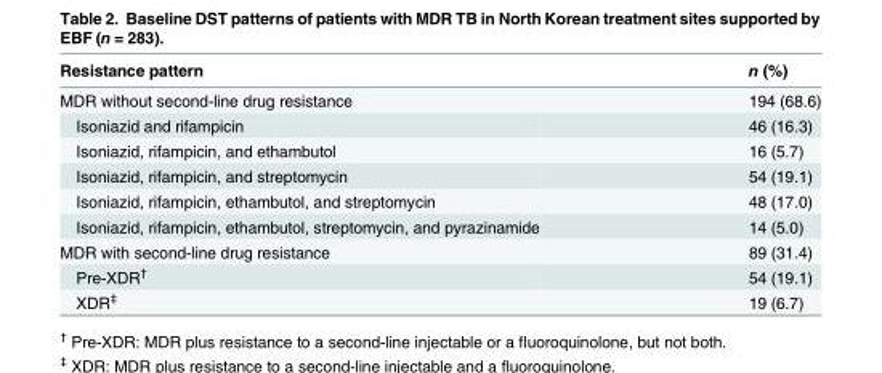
<table><thead><tr><td>Resistance pattern</td><td>n (%)</td></tr></thead><tbody><tr><td>MDR without second-line drug resistance</td><td>194 (68.6)</td></tr><tr><td>Isoniazid and rifampicin</td><td>46 (16.3)</td></tr><tr><td>Isoniazid, rifampicin, and ethambutol</td><td>16 (5.7)</td></tr><tr><td>Isoniazid, rifampicin, and streptomycin</td><td>54 (19.1)</td></tr><tr><td>Isoniazid, rifampicin, ethambutol, and streptomycin</td><td>48 (17.0)</td></tr><tr><td>Isoniazid, rifampicin, ethambutol, streptomycin, and pyrazinamide</td><td>14 (5.0)</td></tr><tr><td>MDR with second-line drug resistance</td><td>89 (31.4)</td></tr><tr><td>Pre-XDR<sup>†</sup></td><td>54 (19.1)</td></tr><tr><td>XDR<sup>‡</sup></td><td>19 (6.7)</td></tr></tbody></table>